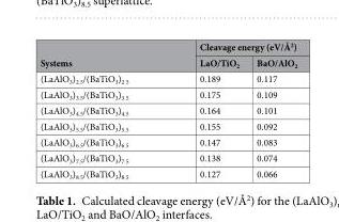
<table><thead><tr><td rowspan="2">Systems</td><td colspan="2">Cleavage energy (eV/Å<sup>2</sup>)</td></tr><tr><td>LaO/TiO<sub>2</sub></td><td>BaO/AlO<sub>2</sub></td></tr></thead><tbody><tr><td>(LaAlO<sub>3</sub>)<sub>2.5</sub>/(BaTiO<sub>3</sub>)<sub>2.5</sub></td><td>0.189</td><td>0.117</td></tr><tr><td>(LaAlO<sub>3</sub>)<sub>3.5</sub>/(BaTiO<sub>3</sub>)<sub>3.5</sub></td><td>0.175</td><td>0.109</td></tr><tr><td>(LaAlO<sub>3</sub>)<sub>4.5</sub>/(BaTiO<sub>3</sub>)<sub>4.5</sub></td><td>0.164</td><td>0.101</td></tr><tr><td>(LaAlO<sub>3</sub>)<sub>5.5</sub>/(BaTiO<sub>3</sub>)<sub>5.5</sub></td><td>0.155</td><td>0.092</td></tr><tr><td>(LaAlO<sub>3</sub>)<sub>6.5</sub>/(BaTiO<sub>3</sub>)<sub>6.5</sub></td><td>0.147</td><td>0.083</td></tr><tr><td>(LaAlO<sub>3</sub>)<sub>7.5</sub>/(BaTiO<sub>3</sub>)<sub>7.5</sub></td><td>0.138</td><td>0.074</td></tr><tr><td>(LaAlO<sub>3</sub>)<sub>8.5</sub>/(BaTiO<sub>3</sub>)<sub>8.5</sub></td><td>0.127</td><td>0.066</td></tr></tbody></table>